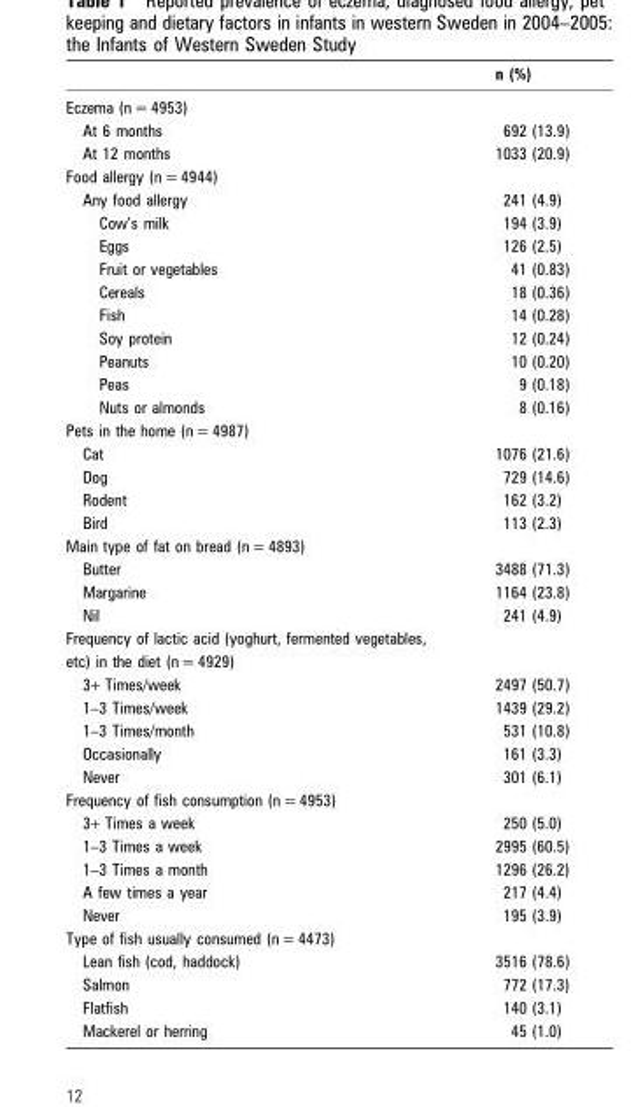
<table><thead><tr><td></td><td>n (%)</td></tr></thead><tbody><tr><td colspan="2">Eczema (n = 4953)</td></tr><tr><td>At 6 months</td><td>692 (13.9)</td></tr><tr><td>At 12 months</td><td>1033 (20.9)</td></tr><tr><td colspan="2">Food allergy (n = 4944)</td></tr><tr><td>Any food allergy</td><td>241 (4.9)</td></tr><tr><td>Cow’s milk</td><td>194 (3.9)</td></tr><tr><td>Eggs</td><td>126 (2.5)</td></tr><tr><td>Fruit or vegetables</td><td>41 (0.83)</td></tr><tr><td>Cereals</td><td>18 (0.36)</td></tr><tr><td>Fish</td><td>14 (0.28)</td></tr><tr><td>Soy protein</td><td>12 (0.24)</td></tr><tr><td>Peanuts</td><td>10 (0.20)</td></tr><tr><td>Peas</td><td>9 (0.18)</td></tr><tr><td>Nuts or almonds</td><td>8 (0.16)</td></tr><tr><td colspan="2">Pets in the home (n = 4987)</td></tr><tr><td>Cat</td><td>1076 (21.6)</td></tr><tr><td>Dog</td><td>729 (14.6)</td></tr><tr><td>Rodent</td><td>162 (3.2)</td></tr><tr><td>Bird</td><td>113 (2.3)</td></tr><tr><td colspan="2">Main type of fat on bread (n = 4893)</td></tr><tr><td>Butter</td><td>3488 (71.3)</td></tr><tr><td>Margarine</td><td>1164 (23.8)</td></tr><tr><td>Nil</td><td>241 (4.9)</td></tr><tr><td colspan="2">Frequency of lactic acid (yoghurt, fermented vegetables,</td></tr><tr><td colspan="2">etc) in the diet (n = 4929)</td></tr><tr><td>3+ Times/week</td><td>2497 (50.7)</td></tr><tr><td>1–3 Times/week</td><td>1439 (29.2)</td></tr><tr><td>1–3 Times/month</td><td>531 (10.8)</td></tr><tr><td>Occasionally</td><td>161 (3.3)</td></tr><tr><td>Never</td><td>301 (6.1)</td></tr><tr><td colspan="2">Frequency of fish consumption (n = 4953)</td></tr><tr><td>3+ Times a week</td><td>250 (5.0)</td></tr><tr><td>1–3 Times a week</td><td>2995 (60.5)</td></tr><tr><td>1–3 Times a month</td><td>1296 (26.2)</td></tr><tr><td>A few times a year</td><td>217 (4.4)</td></tr><tr><td>Never</td><td>195 (3.9)</td></tr><tr><td colspan="2">Type of fish usually consumed (n = 4473)</td></tr><tr><td>Lean fish (cod, haddock)</td><td>3516 (78.6)</td></tr><tr><td>Salmon</td><td>772 (17.3)</td></tr><tr><td>Flatfish</td><td>140 (3.1)</td></tr><tr><td>Mackerel or herring</td><td>45 (1.0)</td></tr></tbody></table>